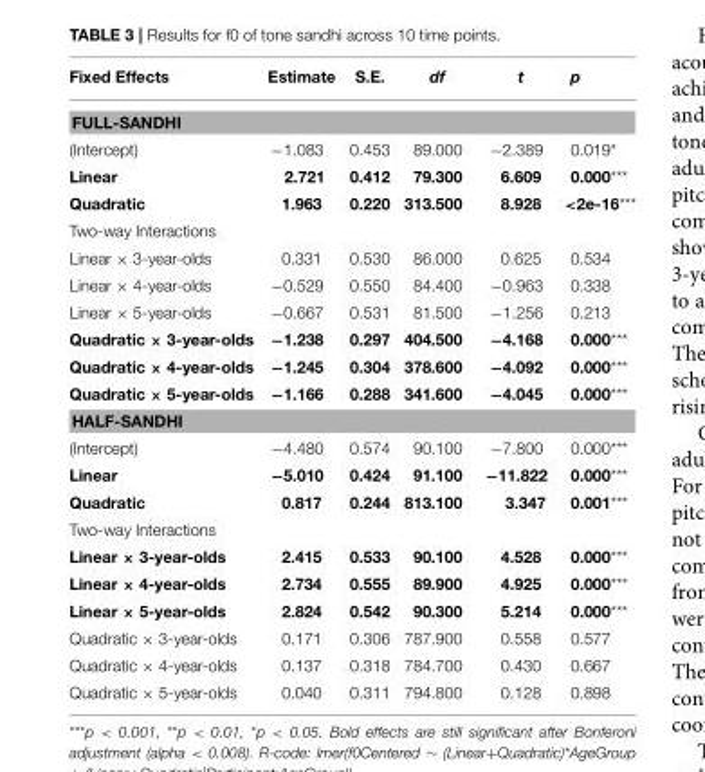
<table><thead><tr><td>Fixed Effects</td><td>Estimate</td><td>S.E.</td><td>df</td><td>t</td><td>p</td></tr></thead><tbody><tr><td colspan="6">FULL-SANDHI</td></tr><tr><td>(Intercept)</td><td>−1.083</td><td>0.453</td><td>89.000</td><td>−2.389</td><td>0.019*</td></tr><tr><td>Linear</td><td>2.721</td><td>0.412</td><td>79.300</td><td>6.609</td><td>0.000***</td></tr><tr><td>Quadratic</td><td>1.963</td><td>0.220</td><td>313.500</td><td>8.928</td><td>&lt;2e-16***</td></tr><tr><td colspan="6">Two-way Interactions</td></tr><tr><td>Linear × 3-year-olds</td><td>0.331</td><td>0.530</td><td>86.000</td><td>0.625</td><td>0.534</td></tr><tr><td>Linear × 4-year-olds</td><td>−0.529</td><td>0.550</td><td>84.400</td><td>−0.963</td><td>0.338</td></tr><tr><td>Linear × 5-year-olds</td><td>−0.667</td><td>0.531</td><td>81.500</td><td>−1.256</td><td>0.213</td></tr><tr><td>Quadratic × 3-year-olds</td><td>−1.238</td><td>0.297</td><td>404.500</td><td>−4.168</td><td>0.000***</td></tr><tr><td>Quadratic × 4-year-olds</td><td>−1.245</td><td>0.304</td><td>378.600</td><td>−4.092</td><td>0.000***</td></tr><tr><td>Quadratic × 5-year-olds</td><td>−1.166</td><td>0.288</td><td>341.600</td><td>−4.045</td><td>0.000***</td></tr><tr><td colspan="6">HALF-SANDHI</td></tr><tr><td>(Intercept)</td><td>−4.480</td><td>0.574</td><td>90.100</td><td>−7.800</td><td>0.000***</td></tr><tr><td>Linear</td><td>−5.010</td><td>0.424</td><td>91.100</td><td>−11.822</td><td>0.000***</td></tr><tr><td>Quadratic</td><td>0.817</td><td>0.244</td><td>813.100</td><td>3.347</td><td>0.001***</td></tr><tr><td colspan="6">Two-way Interactions</td></tr><tr><td>Linear × 3-year-olds</td><td>2.415</td><td>0.533</td><td>90.100</td><td>4.528</td><td>0.000***</td></tr><tr><td>Linear × 4-year-olds</td><td>2.734</td><td>0.555</td><td>89.900</td><td>4.925</td><td>0.000***</td></tr><tr><td>Linear × 5-year-olds</td><td>2.824</td><td>0.542</td><td>90.300</td><td>5.214</td><td>0.000***</td></tr><tr><td>Quadratic × 3-year-olds</td><td>0.171</td><td>0.306</td><td>787.900</td><td>0.558</td><td>0.577</td></tr><tr><td>Quadratic × 4-year-olds</td><td>0.137</td><td>0.318</td><td>784.700</td><td>0.430</td><td>0.667</td></tr><tr><td>Quadratic × 5-year-olds</td><td>0.040</td><td>0.311</td><td>794.800</td><td>0.128</td><td>0.898</td></tr></tbody></table>